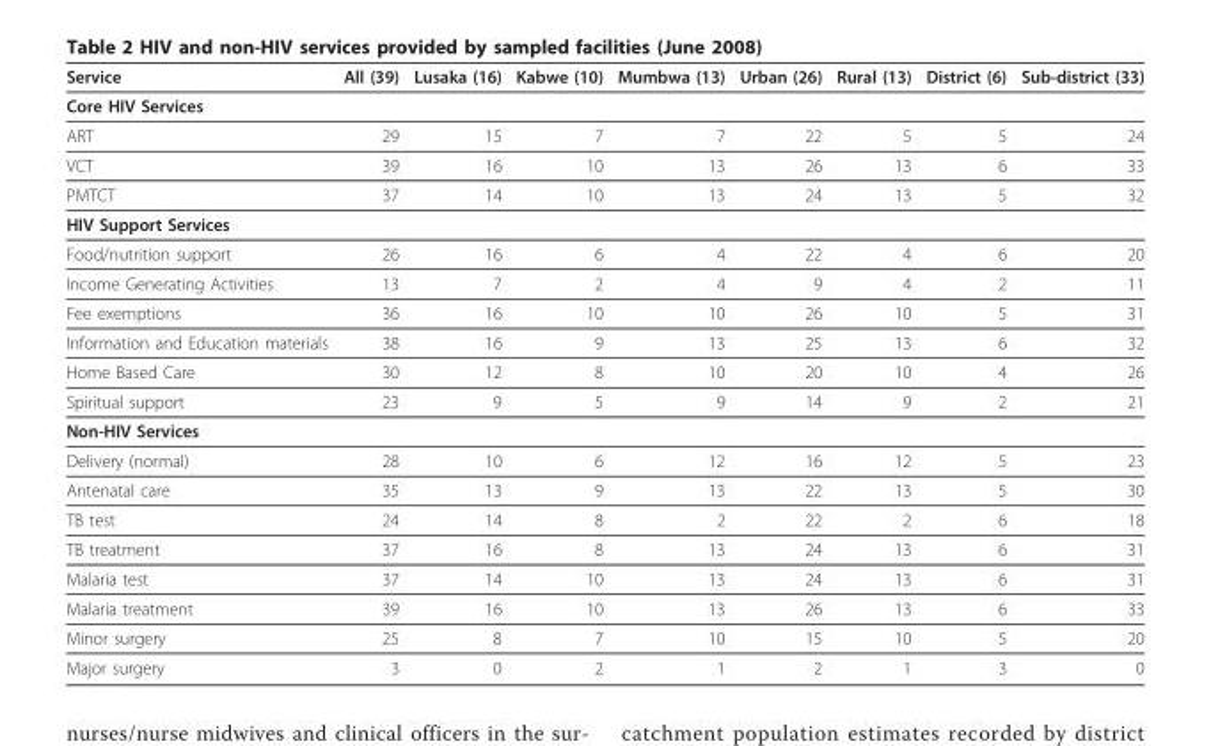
<table><thead><tr><td>Service</td><td>All (39)</td><td>Lusaka (16)</td><td>Kabwe (10)</td><td>Mumbwa (13)</td><td>Urban (26)</td><td>Rural (13)</td><td>District (6)</td><td>Sub-district (33)</td></tr></thead><tbody><tr><td colspan="9">Core HIV Services</td></tr><tr><td>ART</td><td>29</td><td>15</td><td>7</td><td>7</td><td>22</td><td>5</td><td>5</td><td>24</td></tr><tr><td>VCT</td><td>39</td><td>16</td><td>10</td><td>13</td><td>26</td><td>13</td><td>6</td><td>33</td></tr><tr><td>PMTCT</td><td>37</td><td>14</td><td>10</td><td>13</td><td>24</td><td>13</td><td>5</td><td>32</td></tr><tr><td colspan="9">HIV Support Services</td></tr><tr><td>Food/nutrition support</td><td>26</td><td>16</td><td>6</td><td>4</td><td>22</td><td>4</td><td>6</td><td>20</td></tr><tr><td>Income Generating Activities</td><td>13</td><td>7</td><td>2</td><td>4</td><td>9</td><td>4</td><td>2</td><td>11</td></tr><tr><td>Fee exemptions</td><td>36</td><td>16</td><td>10</td><td>10</td><td>26</td><td>10</td><td>5</td><td>31</td></tr><tr><td>Information and Education materials</td><td>38</td><td>16</td><td>9</td><td>13</td><td>25</td><td>13</td><td>6</td><td>32</td></tr><tr><td>Home Based Care</td><td>30</td><td>12</td><td>8</td><td>10</td><td>20</td><td>10</td><td>4</td><td>26</td></tr><tr><td>Spiritual support</td><td>23</td><td>9</td><td>5</td><td>9</td><td>14</td><td>9</td><td>2</td><td>21</td></tr><tr><td colspan="9">Non-HIV Services</td></tr><tr><td>Delivery (normal)</td><td>28</td><td>10</td><td>6</td><td>12</td><td>16</td><td>12</td><td>5</td><td>23</td></tr><tr><td>Antenatal care</td><td>35</td><td>13</td><td>9</td><td>13</td><td>22</td><td>13</td><td>5</td><td>30</td></tr><tr><td>TB test</td><td>24</td><td>14</td><td>8</td><td>2</td><td>22</td><td>2</td><td>6</td><td>18</td></tr><tr><td>TB treatment</td><td>37</td><td>16</td><td>8</td><td>13</td><td>24</td><td>13</td><td>6</td><td>31</td></tr><tr><td>Malaria test</td><td>37</td><td>14</td><td>10</td><td>13</td><td>24</td><td>13</td><td>6</td><td>31</td></tr><tr><td>Malaria treatment</td><td>39</td><td>16</td><td>10</td><td>13</td><td>26</td><td>13</td><td>6</td><td>33</td></tr><tr><td>Minor surgery</td><td>25</td><td>8</td><td>7</td><td>10</td><td>15</td><td>10</td><td>5</td><td>20</td></tr><tr><td>Major surgery</td><td>3</td><td>0</td><td>2</td><td>1</td><td>2</td><td>1</td><td>3</td><td>0</td></tr></tbody></table>